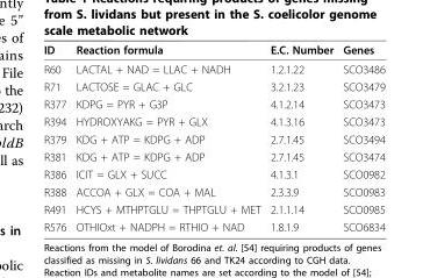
<table><thead><tr><td>ID</td><td>Reaction formula</td><td>E.C. Number</td><td>Genes</td></tr></thead><tbody><tr><td>R60</td><td>LACTAL + NAD = LLAC + NADH</td><td>1.2.1.22</td><td>SCO3486</td></tr><tr><td>R71</td><td>LACTOSE = GLAC + GLC</td><td>3.2.1.23</td><td>SCO3479</td></tr><tr><td>R377</td><td>KDPG = PYR + G3P</td><td>4.1.2.14</td><td>SCO3473</td></tr><tr><td>R394</td><td>HYDROXYAKG = PYR + GLX</td><td>4.1.3.16</td><td>SCO3473</td></tr><tr><td>R379</td><td>KDG + ATP = KDPG + ADP</td><td>2.7.1.45</td><td>SCO3494</td></tr><tr><td>R381</td><td>KDG + ATP = KDPG + ADP</td><td>2.7.1.45</td><td>SCO3474</td></tr><tr><td>R386</td><td>ICIT = GLX + SUCC</td><td>4.1.3.1</td><td>SCO0982</td></tr><tr><td>R388</td><td>ACCOA + GLX = COA + MAL</td><td>2.3.3.9</td><td>SCO0983</td></tr><tr><td>R491</td><td>HCYS + MTHPTGLU = THPTGLU + MET</td><td>2.1.1.14</td><td>SCO0985</td></tr><tr><td>R576</td><td>OTHIOxt + NADPH = RTHIO + NAD</td><td>1.8.1.9</td><td>SCO6834</td></tr></tbody></table>